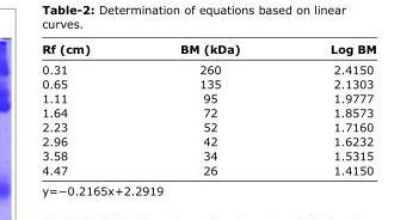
<table><thead><tr><td>Rf (cm)</td><td>BM (kDa)</td><td>Log BM</td></tr></thead><tbody><tr><td>0.31</td><td>260</td><td>2.4150</td></tr><tr><td>0.65</td><td>135</td><td>2.1303</td></tr><tr><td>1.11</td><td>95</td><td>1.9777</td></tr><tr><td>1.64</td><td>72</td><td>1.8573</td></tr><tr><td>2.23</td><td>52</td><td>1.7160</td></tr><tr><td>2.96</td><td>42</td><td>1.6232</td></tr><tr><td>3.58</td><td>34</td><td>1.5315</td></tr><tr><td>4.47</td><td>26</td><td>1.4150</td></tr></tbody></table>